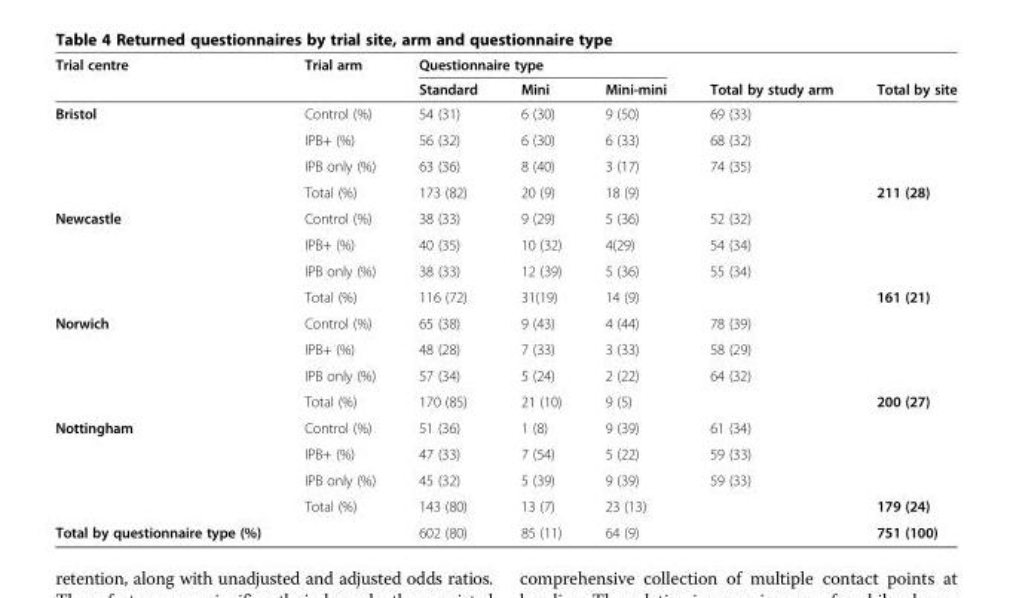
<table><thead><tr><td rowspan="2">Trial centre</td><td rowspan="2">Trial arm</td><td colspan="3">Questionnaire type</td><td rowspan="2">Total by study arm</td><td rowspan="2">Total by site</td></tr><tr><td>Standard</td><td>Mini</td><td>Mini-mini</td></tr></thead><tbody><tr><td rowspan="4">Bristol</td><td>Control (%)</td><td>54 (31)</td><td>6 (30)</td><td>9 (50)</td><td>69 (33)</td><td></td></tr><tr><td>IPB+ (%)</td><td>56 (32)</td><td>6 (30)</td><td>6 (33)</td><td>68 (32)</td><td></td></tr><tr><td>IPB only (%)</td><td>63 (36)</td><td>8 (40)</td><td>3 (17)</td><td>74 (35)</td><td></td></tr><tr><td>Total (%)</td><td>173 (82)</td><td>20 (9)</td><td>18 (9)</td><td></td><td>211 (28)</td></tr><tr><td rowspan="4">Newcastle</td><td>Control (%)</td><td>38 (33)</td><td>9 (29)</td><td>5 (36)</td><td>52 (32)</td><td></td></tr><tr><td>IPB+ (%)</td><td>40 (35)</td><td>10 (32)</td><td>4(29)</td><td>54 (34)</td><td></td></tr><tr><td>IPB only (%)</td><td>38 (33)</td><td>12 (39)</td><td>5 (36)</td><td>55 (34)</td><td></td></tr><tr><td>Total (%)</td><td>116 (72)</td><td>31(19)</td><td>14 (9)</td><td></td><td>161 (21)</td></tr><tr><td rowspan="4">Norwich</td><td>Control (%)</td><td>65 (38)</td><td>9 (43)</td><td>4 (44)</td><td>78 (39)</td><td></td></tr><tr><td>IPB+ (%)</td><td>48 (28)</td><td>7 (33)</td><td>3 (33)</td><td>58 (29)</td><td></td></tr><tr><td>IPB only (%)</td><td>57 (34)</td><td>5 (24)</td><td>2 (22)</td><td>64 (32)</td><td></td></tr><tr><td>Total (%)</td><td>170 (85)</td><td>21 (10)</td><td>9 (5)</td><td></td><td>200 (27)</td></tr><tr><td rowspan="4">Nottingham</td><td>Control (%)</td><td>51 (36)</td><td>1 (8)</td><td>9 (39)</td><td>61 (34)</td><td></td></tr><tr><td>IPB+ (%)</td><td>47 (33)</td><td>7 (54)</td><td>5 (22)</td><td>59 (33)</td><td></td></tr><tr><td>IPB only (%)</td><td>45 (32)</td><td>5 (39)</td><td>9 (39)</td><td>59 (33)</td><td></td></tr><tr><td>Total (%)</td><td>143 (80)</td><td>13 (7)</td><td>23 (13)</td><td></td><td>179 (24)</td></tr><tr><td>Total by questionnaire type (%)</td><td></td><td>602 (80)</td><td>85 (11)</td><td>64 (9)</td><td></td><td>751 (100)</td></tr></tbody></table>